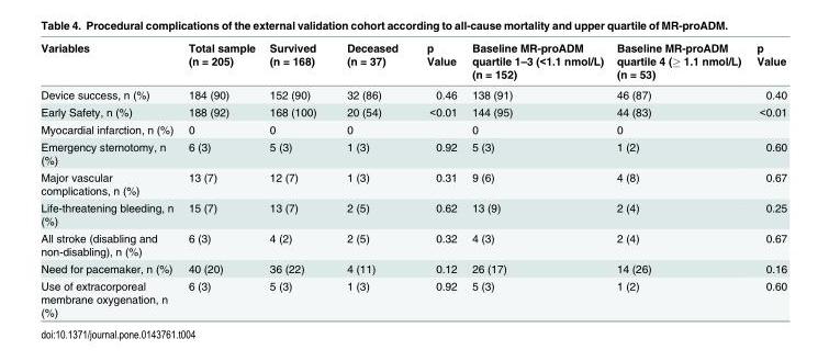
<table><thead><tr><td>Variables</td><td>Total sample (n = 205)</td><td>Survived (n = 168)</td><td>Deceased (n = 37)</td><td>p Value</td><td>Baseline MR-proADM quartile 1–3 (&lt;1.1 nmol/L) (n = 152)</td><td>Baseline MR-proADM quartile 4 (≥ 1.1 nmol/L) (n = 53)</td><td>p Value</td></tr></thead><tbody><tr><td>Device success, n (%)</td><td>184 (90)</td><td>152 (90)</td><td>32 (86)</td><td>0.46</td><td>138 (91)</td><td>46 (87)</td><td>0.40</td></tr><tr><td>Early Safety, n (%)</td><td>188 (92)</td><td>168 (100)</td><td>20 (54)</td><td>&lt;0.01</td><td>144 (95)</td><td>44 (83)</td><td>&lt;0.01</td></tr><tr><td>Myocardial infarction, n (%)</td><td>0</td><td>0</td><td>0</td><td></td><td>0</td><td>0</td><td></td></tr><tr><td>Emergency sternotomy, n (%)</td><td>6 (3)</td><td>5 (3)</td><td>1 (3)</td><td>0.92</td><td>5 (3)</td><td>1 (2)</td><td>0.60</td></tr><tr><td>Major vascular complications, n (%)</td><td>13 (7)</td><td>12 (7)</td><td>1 (3)</td><td>0.31</td><td>9 (6)</td><td>4 (8)</td><td>0.67</td></tr><tr><td>Life-threatening bleeding, n (%)</td><td>15 (7)</td><td>13 (7)</td><td>2 (5)</td><td>0.62</td><td>13 (9)</td><td>2 (4)</td><td>0.25</td></tr><tr><td>All stroke (disabling and non-disabling), n (%)</td><td>6 (3)</td><td>4 (2)</td><td>2 (5)</td><td>0.32</td><td>4 (3)</td><td>2 (4)</td><td>0.67</td></tr><tr><td>Need for pacemaker, n (%)</td><td>40 (20)</td><td>36 (22)</td><td>4 (11)</td><td>0.12</td><td>26 (17)</td><td>14 (26)</td><td>0.16</td></tr><tr><td>Use of extracorporeal membrane oxygenation, n (%)</td><td>6 (3)</td><td>5 (3)</td><td>1 (3)</td><td>0.92</td><td>5 (3)</td><td>1 (2)</td><td>0.60</td></tr></tbody></table>